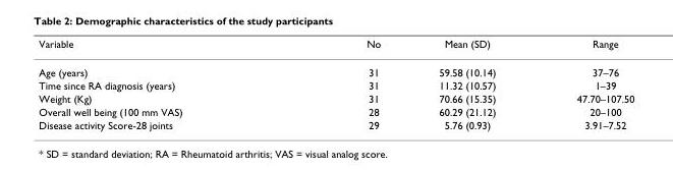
<table><thead><tr><td>Variable</td><td>No</td><td>Mean (SD)</td><td>Range</td></tr></thead><tbody><tr><td>Age (years)</td><td>31</td><td>59.58 (10.14)</td><td>37–76</td></tr><tr><td>Time since RA diagnosis (years)</td><td>31</td><td>11.32 (10.57)</td><td>1–39</td></tr><tr><td>Weight (Kg)</td><td>31</td><td>70.66 (15.35)</td><td>47.70–107.50</td></tr><tr><td>Overall well being (100 mm VAS)</td><td>28</td><td>60.29 (21.12)</td><td>20–100</td></tr><tr><td>Disease activity Score-28 joints</td><td>29</td><td>5.76 (0.93)</td><td>3.91–7.52</td></tr></tbody></table>